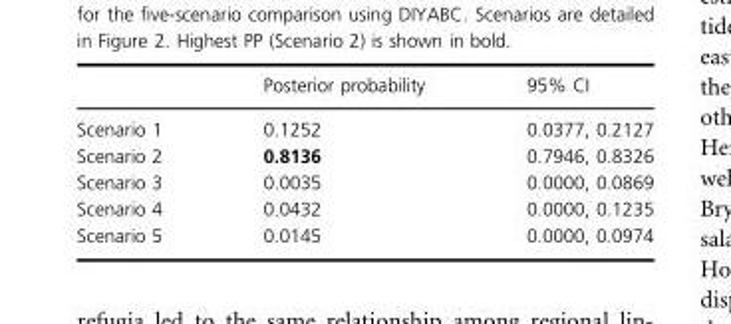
<table><thead><tr><td></td><td>Posterior probability</td><td>95% CI</td></tr></thead><tbody><tr><td>Scenario 1</td><td>0.1252</td><td>0.0377, 0.2127</td></tr><tr><td>Scenario 2</td><td>0.8136</td><td>0.7946, 0.8326</td></tr><tr><td>Scenario 3</td><td>0.0035</td><td>0.0000, 0.0869</td></tr><tr><td>Scenario 4</td><td>0.0432</td><td>0.0000, 0.1235</td></tr><tr><td>Scenario 5</td><td>0.0145</td><td>0.0000, 0.0974</td></tr></tbody></table>